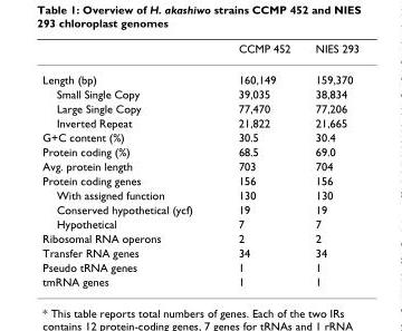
<table><thead><tr><td></td><td>CCMP 452</td><td>NIES 293</td></tr></thead><tbody><tr><td>Length (bp)</td><td>160,149</td><td>159,370</td></tr><tr><td>Small Single Copy</td><td>39,035</td><td>38,834</td></tr><tr><td>Large Single Copy</td><td>77,470</td><td>77,206</td></tr><tr><td>Inverted Repeat</td><td>21,822</td><td>21,665</td></tr><tr><td>G+C content (%)</td><td>30.5</td><td>30.4</td></tr><tr><td>Protein coding (%)</td><td>68.5</td><td>69.0</td></tr><tr><td>Avg. protein length</td><td>703</td><td>704</td></tr><tr><td>Protein coding genes</td><td>156</td><td>156</td></tr><tr><td>With assigned function</td><td>130</td><td>130</td></tr><tr><td>Conserved hypothetical (ycf)</td><td>19</td><td>19</td></tr><tr><td>Hypothetical</td><td>7</td><td>7</td></tr><tr><td>Ribosomal RNA operons</td><td>2</td><td>2</td></tr><tr><td>Transfer RNA genes</td><td>34</td><td>34</td></tr><tr><td>Pseudo tRNA genes</td><td>1</td><td>1</td></tr><tr><td>tmRNA genes</td><td>1</td><td>1</td></tr></tbody></table>